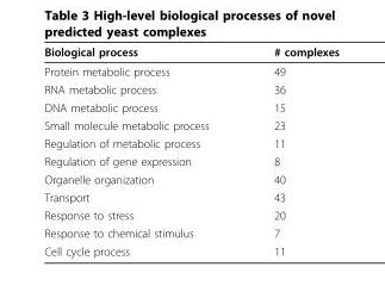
<table><thead><tr><td>Biological process</td><td># complexes</td></tr></thead><tbody><tr><td>Protein metabolic process</td><td>49</td></tr><tr><td>RNA metabolic process</td><td>36</td></tr><tr><td>DNA metabolic process</td><td>15</td></tr><tr><td>Small molecule metabolic process</td><td>23</td></tr><tr><td>Regulation of metabolic process</td><td>11</td></tr><tr><td>Regulation of gene expression</td><td>8</td></tr><tr><td>Organelle organization</td><td>40</td></tr><tr><td>Transport</td><td>43</td></tr><tr><td>Response to stress</td><td>20</td></tr><tr><td>Response to chemical stimulus</td><td>7</td></tr><tr><td>Cell cycle process</td><td>11</td></tr></tbody></table>